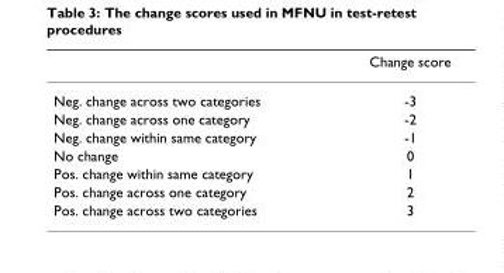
<table><thead><tr><td></td><td>Change score</td></tr></thead><tbody><tr><td>Neg. change across two categories</td><td>-3</td></tr><tr><td>Neg. change across one category</td><td>-2</td></tr><tr><td>Neg. change within same category</td><td>-1</td></tr><tr><td>No change</td><td>0</td></tr><tr><td>Pos. change within same category</td><td>1</td></tr><tr><td>Pos. change across one category</td><td>2</td></tr><tr><td>Pos. change across two categories</td><td>3</td></tr></tbody></table>